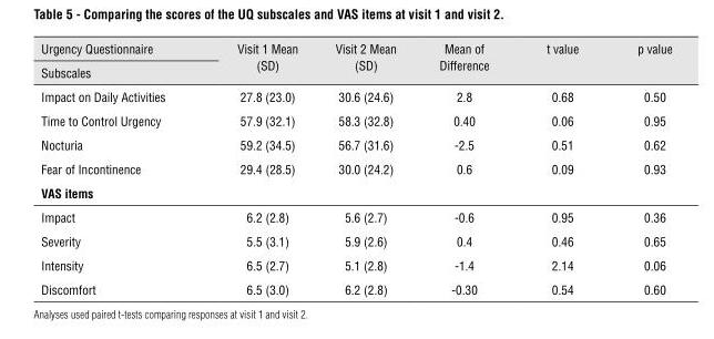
<table><thead><tr><td rowspan="2">Urgency Questionnaire Subscales</td><td rowspan="2">Visit 1 Mean (SD)</td><td rowspan="2">Visit 2 Mean (SD)</td><td rowspan="2">Mean of Difference</td><td rowspan="2">t value</td><td rowspan="2">p value</td></tr><tr></tr></thead><tbody><tr><td>Impact on Daily Activities</td><td>27.8 (23.0)</td><td>30.6 (24.6)</td><td>2.8</td><td>0.68</td><td>0.50</td></tr><tr><td>Time to Control Urgency</td><td>57.9 (32.1)</td><td>58.3 (32.8)</td><td>0.40</td><td>0.06</td><td>0.95</td></tr><tr><td>Nocturia</td><td>59.2 (34.5)</td><td>56.7 (31.6)</td><td>-2.5</td><td>0.51</td><td>0.62</td></tr><tr><td>Fear of Incontinence</td><td>29.4 (28.5)</td><td>30.0 (24.2)</td><td>0.6</td><td>0.09</td><td>0.93</td></tr><tr><td colspan="6">vAS items</td></tr><tr><td>Impact</td><td>6.2 (2.8)</td><td>5.6 (2.7)</td><td>-0.6</td><td>0.95</td><td>0.36</td></tr><tr><td>Severity</td><td>5.5 (3.1)</td><td>5.9 (2.6)</td><td>0.4</td><td>0.46</td><td>0.65</td></tr><tr><td>Intensity</td><td>6.5 (2.7)</td><td>5.1 (2.8)</td><td>-1.4</td><td>2.14</td><td>0.06</td></tr><tr><td>Discomfort</td><td>6.5 (3.0)</td><td>6.2 (2.8)</td><td>-0.30</td><td>0.54</td><td>0.60</td></tr></tbody></table>